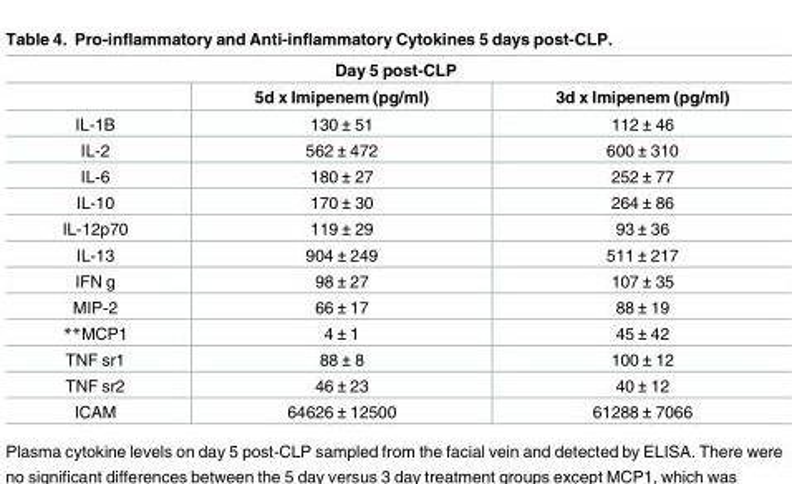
<table><thead><tr><td colspan="3">Day 5 post-CLP</td></tr><tr><td></td><td>5d x Imipenem (pg/ml)</td><td>3d x Imipenem (pg/ml)</td></tr></thead><tbody><tr><td>IL-1B</td><td>130 ± 51</td><td>112 ± 46</td></tr><tr><td>IL-2</td><td>562 ± 472</td><td>600 ± 310</td></tr><tr><td>IL-6</td><td>180 ± 27</td><td>252 ± 77</td></tr><tr><td>IL-10</td><td>170 ± 30</td><td>264 ± 86</td></tr><tr><td>IL-12p70</td><td>119 ± 29</td><td>93 ± 36</td></tr><tr><td>IL-13</td><td>904 ± 249</td><td>511 ± 217</td></tr><tr><td>IFN g</td><td>98 ± 27</td><td>107 ± 35</td></tr><tr><td>MIP-2</td><td>66 ± 17</td><td>88 ± 19</td></tr><tr><td>**MCP1</td><td>4 ± 1</td><td>45 ± 42</td></tr><tr><td>TNF sr1</td><td>88 ± 8</td><td>100 ± 12</td></tr><tr><td>TNF sr2</td><td>46 ± 23</td><td>40 ± 12</td></tr><tr><td>ICAM</td><td>64626 ± 12500</td><td>61288 ± 7066</td></tr></tbody></table>